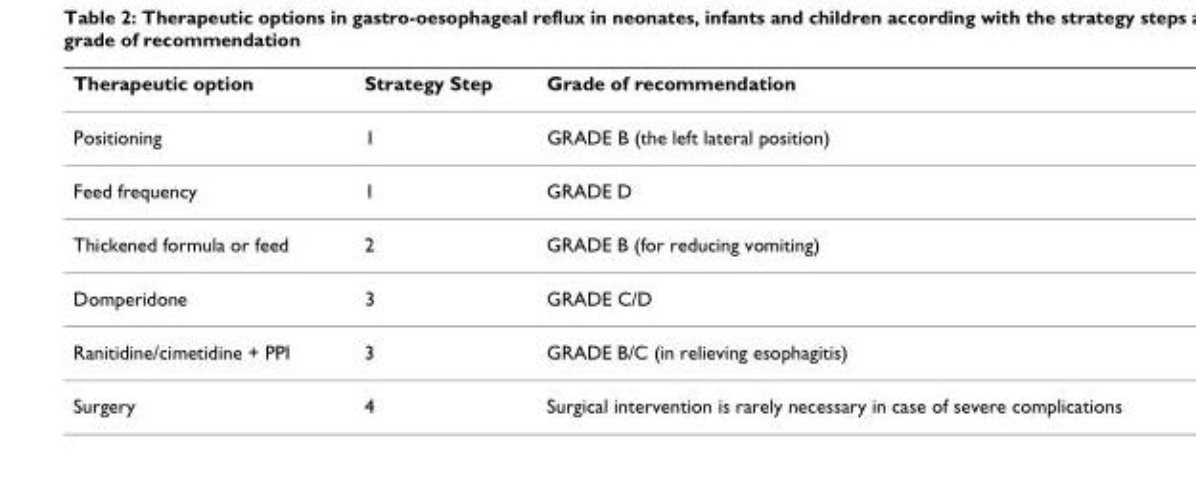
<table><thead><tr><td>Therapeutic option</td><td>Strategy Step</td><td>Grade of recommendation</td></tr></thead><tbody><tr><td>Positioning</td><td>1</td><td>GRADE B (the left lateral position)</td></tr><tr><td>Feed frequency</td><td>1</td><td>GRADE D</td></tr><tr><td>Thickened formula or feed</td><td>2</td><td>GRADE B (for reducing vomiting)</td></tr><tr><td>Domperidone</td><td>3</td><td>GRADE C/D</td></tr><tr><td>Ranitidine/cimetidine + PPI</td><td>3</td><td>GRADE B/C (in relieving esophagitis)</td></tr><tr><td>Surgery</td><td>4</td><td>Surgical intervention is rarely necessary in case of severe complications</td></tr></tbody></table>